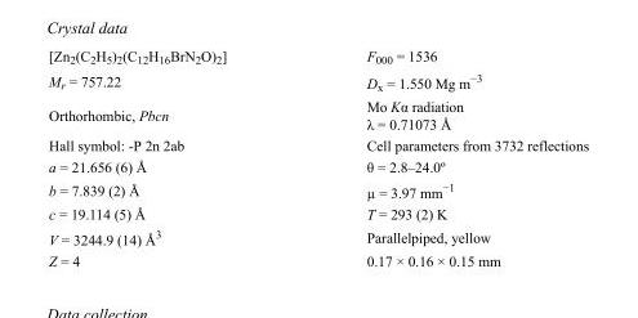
<table><tbody><tr><td>[Zn<sub>2</sub>(C<sub>2</sub>H<sub>5</sub>)<sub>2</sub>(C<sub>12</sub>H<sub>16</sub>BrN<sub>2</sub>O)<sub>2</sub>]</td><td>F<sub>000</sub> = 1536</td></tr><tr><td>M<sub>r</sub> = 757.22</td><td>D<sub>x</sub> = 1.550 Mg m<sup>−3</sup></td></tr><tr><td>Orthorhombic, Pbcn</td><td>Mo Kα radiation λ = 0.71073 Å</td></tr><tr><td>Hall symbol: -P 2n 2ab</td><td>Cell parameters from 3732 reflections</td></tr><tr><td>a = 21.656 (6) Å</td><td>θ = 2.8–24.0º</td></tr><tr><td>b = 7.839 (2) Å</td><td>µ = 3.97 mm<sup>−1</sup></td></tr><tr><td>c = 19.114 (5) Å</td><td>T = 293 (2) K</td></tr><tr><td>V = 3244.9 (14) Å<sup>3</sup></td><td>Parallelpiped, yellow</td></tr><tr><td>Z = 4</td><td>0.17 × 0.16 × 0.15 mm</td></tr></tbody></table>